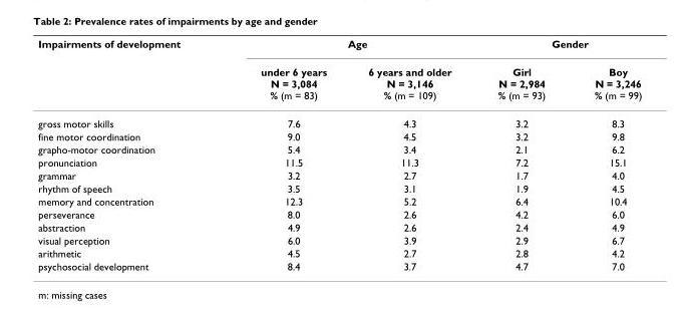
<table><thead><tr><td rowspan="2">Impairments of development</td><td colspan="2">Age</td><td colspan="2">Gender</td></tr><tr><td>under 6 years N = 3,084 % (m = 83)</td><td>6 years and older N = 3,146 % (m = 109)</td><td>Girl N = 2,984 % (m = 93)</td><td>Boy N = 3,246 % (m = 99)</td></tr></thead><tbody><tr><td>gross motor skills</td><td>7.6</td><td>4.3</td><td>3.2</td><td>8.3</td></tr><tr><td>fine motor coordination</td><td>9.0</td><td>4.5</td><td>3.2</td><td>9.8</td></tr><tr><td>grapho-motor coordination</td><td>5.4</td><td>3.4</td><td>2.1</td><td>6.2</td></tr><tr><td>pronunciation</td><td>11.5</td><td>11.3</td><td>7.2</td><td>15.1</td></tr><tr><td>grammar</td><td>3.2</td><td>2.7</td><td>1.7</td><td>4.0</td></tr><tr><td>rhythm of speech</td><td>3.5</td><td>3.1</td><td>1.9</td><td>4.5</td></tr><tr><td>memory and concentration</td><td>12.3</td><td>5.2</td><td>6.4</td><td>10.4</td></tr><tr><td>perseverance</td><td>8.0</td><td>2.6</td><td>4.2</td><td>6.0</td></tr><tr><td>abstraction</td><td>4.9</td><td>2.6</td><td>2.4</td><td>4.9</td></tr><tr><td>visual perception</td><td>6.0</td><td>3.9</td><td>2.9</td><td>6.7</td></tr><tr><td>arithmetic</td><td>4.5</td><td>2.7</td><td>2.8</td><td>4.2</td></tr><tr><td>psychosocial development</td><td>8.4</td><td>3.7</td><td>4.7</td><td>7.0</td></tr></tbody></table>